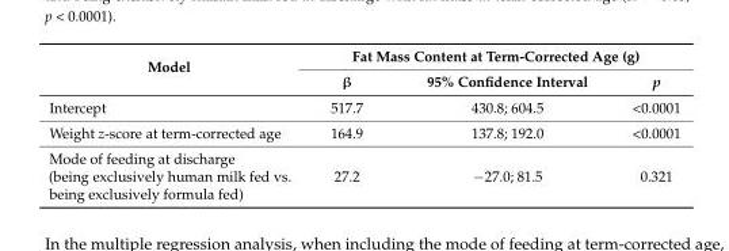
<table><thead><tr><td rowspan="2">Model</td><td colspan="3">Fat Mass Content at Term-Corrected Age (g)</td></tr><tr><td>β</td><td>95% Confidence Interval</td><td>p</td></tr></thead><tbody><tr><td>Intercept</td><td>517.7</td><td>430.8; 604.5</td><td>&lt;0.0001</td></tr><tr><td>Weight z-score at term-corrected age</td><td>164.9</td><td>137.8; 192.0</td><td>&lt;0.0001</td></tr><tr><td>Mode of feeding at discharge (being exclusively human milk fed vs. being exclusively formula fed)</td><td>27.2</td><td>−27.0; 81.5</td><td>0.321</td></tr></tbody></table>